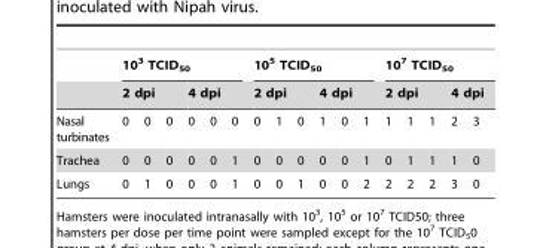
<table><thead><tr><td rowspan="3">Nasal turbinates</td><td colspan="6">10<sup>3</sup> TCID<sub>50</sub></td><td colspan="6">10<sup>5</sup> TCID<sub>50</sub></td><td colspan="5">10<sup>7</sup> TCID<sub>50</sub></td></tr><tr><td colspan="3">2 dpi</td><td colspan="3">4 dpi</td><td colspan="3">2 dpi</td><td colspan="3">4 dpi</td><td colspan="3">2 dpi</td><td colspan="2">4 dpi</td></tr><tr><td>0</td><td>0</td><td>0</td><td>0</td><td>0</td><td>0</td><td>0</td><td>1</td><td>0</td><td>1</td><td>0</td><td>1</td><td>1</td><td>1</td><td>1</td><td>2</td><td>3</td></tr></thead><tbody><tr><td>Trachea</td><td>0</td><td>0</td><td>0</td><td>0</td><td>0</td><td>1</td><td>0</td><td>0</td><td>0</td><td>0</td><td>0</td><td>1</td><td>0</td><td>1</td><td>1</td><td>1</td><td>0</td></tr><tr><td>Lungs</td><td>0</td><td>1</td><td>0</td><td>0</td><td>0</td><td>1</td><td>0</td><td>0</td><td>1</td><td>0</td><td>0</td><td>2</td><td>2</td><td>2</td><td>2</td><td>3</td><td>0</td></tr></tbody></table>